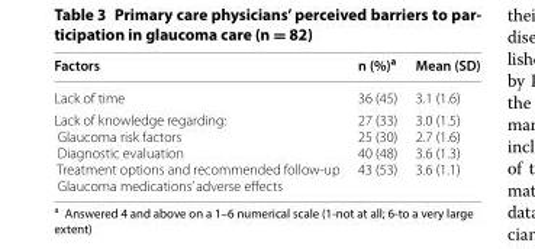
<table><thead><tr><td>Factors</td><td>n (%)<sup>a</sup></td><td>Mean (SD)</td></tr></thead><tbody><tr><td>Lack of time</td><td>36 (45)</td><td>3.1 (1.6)</td></tr><tr><td>Lack of knowledge regarding: Glaucoma risk factors Diagnostic evaluation Treatment options and recommended follow-up Glaucoma medications’ adverse effects</td><td>27 (33) 25 (30) 40 (48) 43 (53)</td><td>3.0 (1.5) 2.7 (1.6) 3.6 (1.3) 3.6 (1.1)</td></tr></tbody></table>